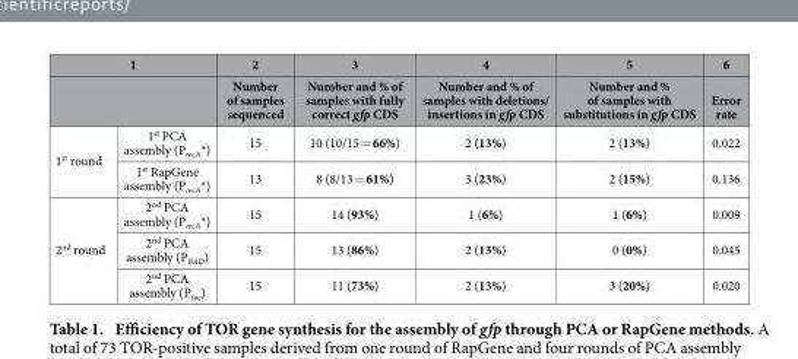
<table><thead><tr><td colspan="2">1</td><td rowspan="2">2 Number of samples sequenced</td><td rowspan="2">3 Number and % of samples with fully correct gfp CDS</td><td rowspan="2">4 Number and % of samples with deletions/ insertions in gfp CDS</td><td rowspan="2">5 Number and % of samples with substitutions in gfp CDS</td><td rowspan="2">6 Error rate</td></tr><tr><td></td><td></td></tr></thead><tbody><tr><td rowspan="2">1<sup>st</sup> round</td><td>1<sup>st</sup> PCA assembly (P<sub>recA</sub>*)</td><td>15</td><td>10 (10/15 = 66%)</td><td>2 (13%)</td><td>2 (13%)</td><td>0.022</td></tr><tr><td>1<sup>st</sup> RapGene assembly (P<sub>recA</sub>*)</td><td>13</td><td>8 (8/13 = 61%)</td><td>3 (23%)</td><td>2 (15%)</td><td>0.136</td></tr><tr><td rowspan="3">2<sup>nd</sup> round</td><td>2<sup>nd</sup> PCA assembly (P<sub>recA</sub>*)</td><td>15</td><td>14 (93%)</td><td>1 (6%)</td><td>1 (6%)</td><td>0.009</td></tr><tr><td>2<sup>nd</sup> PCA assembly (P<sub>BAD</sub>)</td><td>15</td><td>13 (86%)</td><td>2 (13%)</td><td>0 (0%)</td><td>0.045</td></tr><tr><td>2<sup>nd</sup> PCA assembly (P<sub>tac</sub>)</td><td>15</td><td>11 (73%)</td><td>2 (13%)</td><td>3 (20%)</td><td>0.020</td></tr></tbody></table>